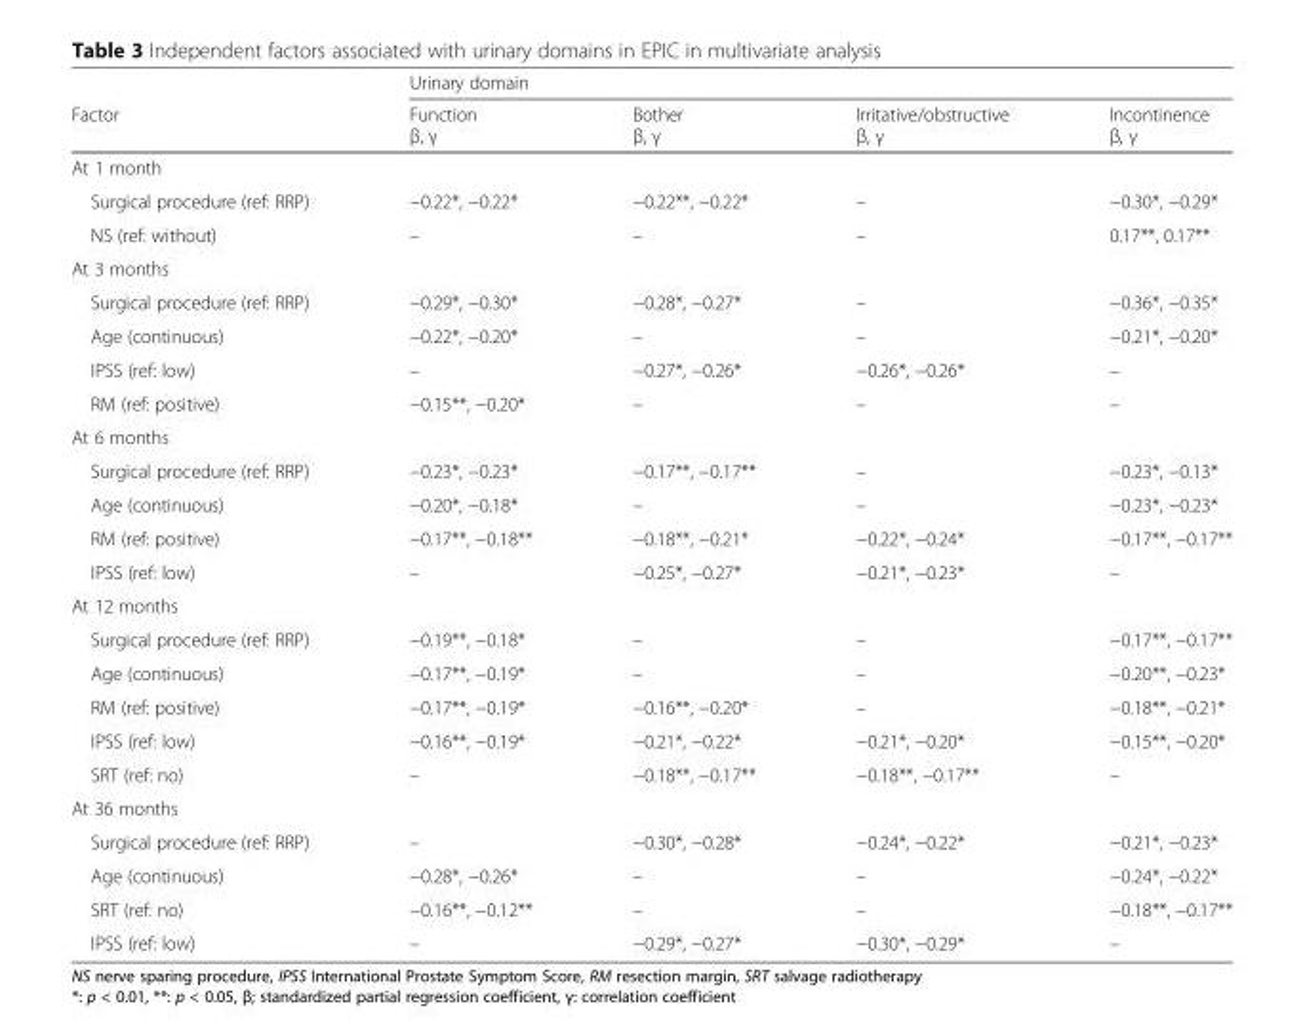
<table><thead><tr><td rowspan="2">Factor</td><td colspan="4">Urinary domain</td></tr><tr><td>Function β, γ</td><td>Bother β, γ</td><td>Irritative/obstructive β, γ</td><td>Incontinence β, γ</td></tr></thead><tbody><tr><td colspan="5">At 1 month</td></tr><tr><td>Surgical procedure (ref: RRP)</td><td>−0.22*, −0.22*</td><td>−0.22**, −0.22*</td><td>–</td><td>−0.30*, −0.29*</td></tr><tr><td>NS (ref: without)</td><td>–</td><td>–</td><td>–</td><td>0.17**, 0.17**</td></tr><tr><td colspan="5">At 3 months</td></tr><tr><td>Surgical procedure (ref: RRP)</td><td>−0.29*, −0.30*</td><td>−0.28*, −0.27*</td><td>–</td><td>−0.36*, −0.35*</td></tr><tr><td>Age (continuous)</td><td>−0.22*, −0.20*</td><td>–</td><td>–</td><td>−0.21*, −0.20*</td></tr><tr><td>IPSS (ref: low)</td><td>–</td><td>−0.27*, −0.26*</td><td>−0.26*, −0.26*</td><td>–</td></tr><tr><td>RM (ref: positive)</td><td>−0.15**, −0.20*</td><td>–</td><td>–</td><td>–</td></tr><tr><td colspan="5">At 6 months</td></tr><tr><td>Surgical procedure (ref: RRP)</td><td>−0.23*, −0.23*</td><td>−0.17**, −0.17**</td><td>–</td><td>−0.23*, −0.13*</td></tr><tr><td>Age (continuous)</td><td>−0.20*, −0.18*</td><td>–</td><td>–</td><td>−0.23*, −0.23*</td></tr><tr><td>RM (ref: positive)</td><td>−0.17**, −0.18**</td><td>−0.18**, −0.21*</td><td>−0.22*, −0.24*</td><td>−0.17**, −0.17**</td></tr><tr><td>IPSS (ref: low)</td><td>–</td><td>−0.25*, −0.27*</td><td>−0.21*, −0.23*</td><td>–</td></tr><tr><td colspan="5">At 12 months</td></tr><tr><td>Surgical procedure (ref: RRP)</td><td>−0.19**, −0.18*</td><td>–</td><td>–</td><td>−0.17**, −0.17**</td></tr><tr><td>Age (continuous)</td><td>−0.17**, −0.19*</td><td>–</td><td>–</td><td>−0.20**, −0.23*</td></tr><tr><td>RM (ref: positive)</td><td>−0.17**, −0.19*</td><td>−0.16**, −0.20*</td><td>–</td><td>−0.18**, −0.21*</td></tr><tr><td>IPSS (ref: low)</td><td>−0.16**, −0.19*</td><td>−0.21*, −0.22*</td><td>−0.21*, −0.20*</td><td>−0.15**, −0.20*</td></tr><tr><td>SRT (ref: no)</td><td>–</td><td>−0.18**, −0.17**</td><td>−0.18**, −0.17**</td><td>–</td></tr><tr><td colspan="5">At 36 months</td></tr><tr><td>Surgical procedure (ref: RRP)</td><td>–</td><td>−0.30*, −0.28*</td><td>−0.24*, −0.22*</td><td>−0.21*, −0.23*</td></tr><tr><td>Age (continuous)</td><td>−0.28*, −0.26*</td><td>–</td><td>–</td><td>−0.24*, −0.22*</td></tr><tr><td>SRT (ref: no)</td><td>−0.16**, −0.12**</td><td>–</td><td>–</td><td>−0.18**, −0.17**</td></tr><tr><td>IPSS (ref: low)</td><td>–</td><td>−0.29*, −0.27*</td><td>−0.30*, −0.29*</td><td>–</td></tr></tbody></table>